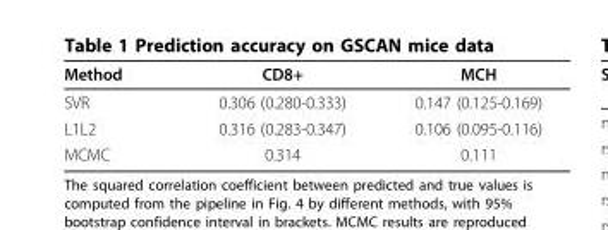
<table><thead><tr><td>Method</td><td>CD8+</td><td>MCH</td></tr></thead><tbody><tr><td>SVR</td><td>0.306 (0.280-0.333)</td><td>0.147 (0.125-0.169)</td></tr><tr><td>L1L2</td><td>0.316 (0.283-0.347)</td><td>0.106 (0.095-0.116)</td></tr><tr><td>MCMC</td><td>0.314</td><td>0.111</td></tr></tbody></table>